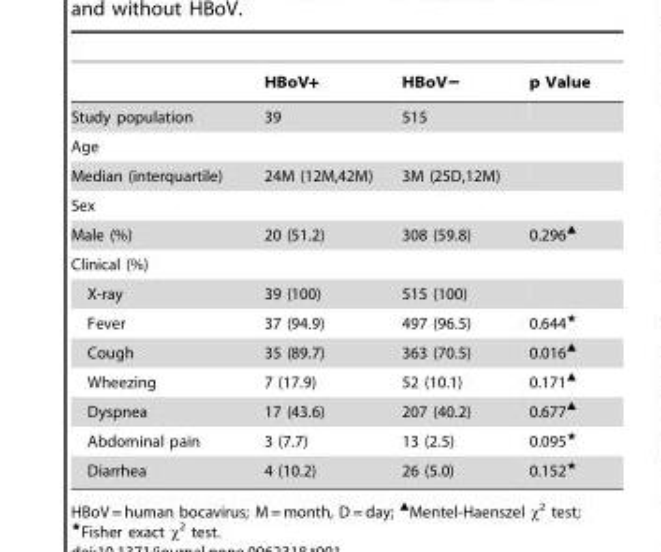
<table><thead><tr><td></td><td>HBoV+</td><td>HBoV−</td><td>p Value</td></tr></thead><tbody><tr><td>Study population</td><td>39</td><td>515</td><td></td></tr><tr><td colspan="4">Age</td></tr><tr><td>Median (interquartile)</td><td>24M (12M,42M)</td><td>3M (25D,12M)</td><td></td></tr><tr><td colspan="4">Sex</td></tr><tr><td>Male (%)</td><td>20 (51.2)</td><td>308 (59.8)</td><td>0.296<sup>▴</sup></td></tr><tr><td colspan="4">Clinical (%)</td></tr><tr><td>X-ray</td><td>39 (100)</td><td>515 (100)</td><td></td></tr><tr><td>Fever</td><td>37 (94.9)</td><td>497 (96.5)</td><td>0.644<sup>★</sup></td></tr><tr><td>Cough</td><td>35 (89.7)</td><td>363 (70.5)</td><td>0.016<sup>▴</sup></td></tr><tr><td>Wheezing</td><td>7 (17.9)</td><td>52 (10.1)</td><td>0.171<sup>▴</sup></td></tr><tr><td>Dyspnea</td><td>17 (43.6)</td><td>207 (40.2)</td><td>0.677<sup>▴</sup></td></tr><tr><td>Abdominal pain</td><td>3 (7.7)</td><td>13 (2.5)</td><td>0.095<sup>★</sup></td></tr><tr><td>Diarrhea</td><td>4 (10.2)</td><td>26 (5.0)</td><td>0.152<sup>★</sup></td></tr></tbody></table>